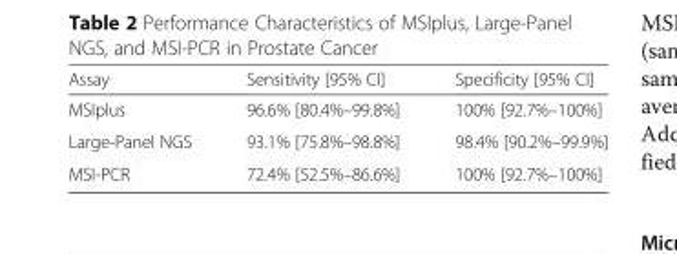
<table><thead><tr><td>Assay</td><td>Sensitivity [95% CI]</td><td>Specificity [95% CI]</td></tr></thead><tbody><tr><td>MSIplus</td><td>96.6% [80.4%–99.8%]</td><td>100% [92.7%–100%]</td></tr><tr><td>Large-Panel NGS</td><td>93.1% [75.8%–98.8%]</td><td>98.4% [90.2%–99.9%]</td></tr><tr><td>MSI-PCR</td><td>72.4% [52.5%–86.6%]</td><td>100% [92.7%–100%]</td></tr></tbody></table>